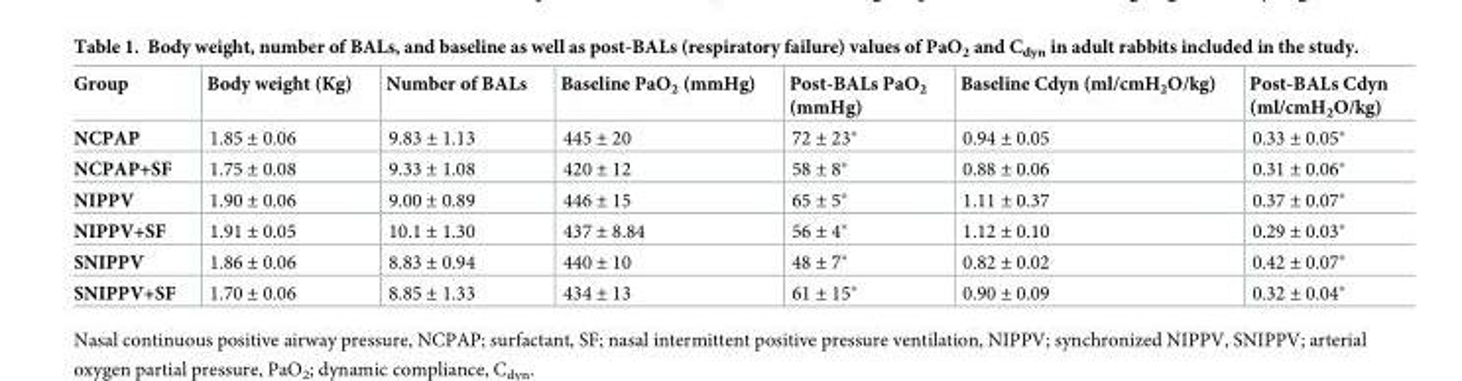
<table><thead><tr><td>Group</td><td>Body weight (Kg)</td><td>Number of BALs</td><td>Baseline PaO<sub>2</sub> (mmHg)</td><td>Post-BALs PaO<sub>2</sub> (mmHg)</td><td>Baseline Cdyn (ml/cmH<sub>2</sub>O/kg)</td><td>Post-BALs Cdyn (ml/cmH<sub>2</sub>O/kg)</td></tr></thead><tbody><tr><td>NCPAP</td><td>1.85 ± 0.06</td><td>9.83 ± 1.13</td><td>445 ± 20</td><td>72 ± 23*</td><td>0.94 ± 0.05</td><td>0.33 ± 0.05*</td></tr><tr><td>NCPAP+SF</td><td>1.75 ± 0.08</td><td>9.33 ± 1.08</td><td>420 ± 12</td><td>58 ± 8*</td><td>0.88 ± 0.06</td><td>0.31 ± 0.06*</td></tr><tr><td>NIPPV</td><td>1.90 ± 0.06</td><td>9.00 ± 0.89</td><td>446 ± 15</td><td>65 ± 5*</td><td>1.11 ± 0.37</td><td>0.37 ± 0.07*</td></tr><tr><td>NIPPV+SF</td><td>1.91 ± 0.05</td><td>10.1 ± 1.30</td><td>437 ± 8.84</td><td>56 ± 4*</td><td>1.12 ± 0.10</td><td>0.29 ± 0.03*</td></tr><tr><td>SNIPPV</td><td>1.86 ± 0.06</td><td>8.83 ± 0.94</td><td>440 ± 10</td><td>48 ± 7*</td><td>0.82 ± 0.02</td><td>0.42 ± 0.07*</td></tr><tr><td>SNIPPV+SF</td><td>1.70 ± 0.06</td><td>8.85 ± 1.33</td><td>434 ± 13</td><td>61 ± 15*</td><td>0.90 ± 0.09</td><td>0.32 ± 0.04*</td></tr></tbody></table>